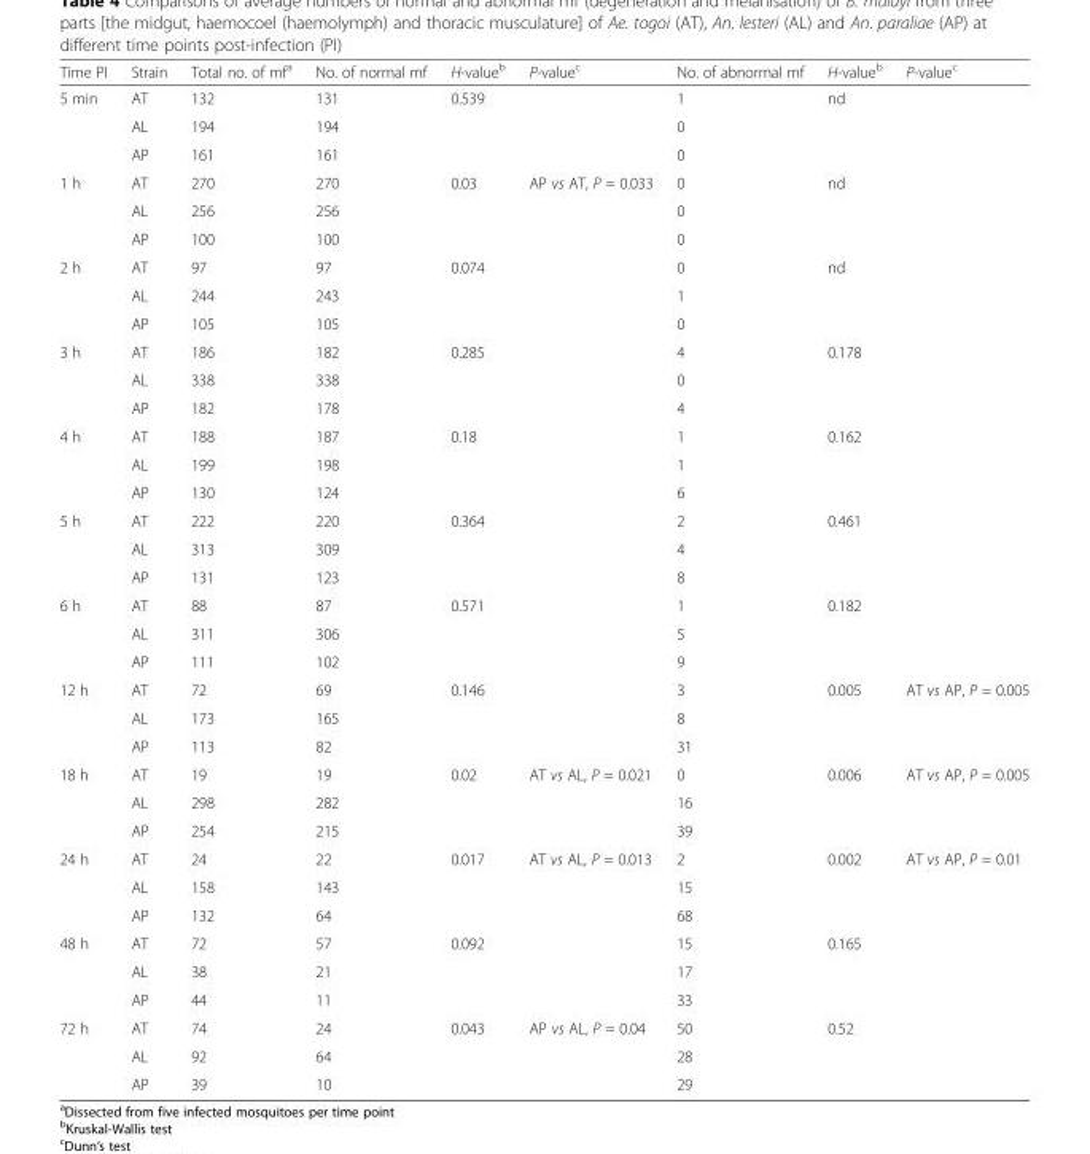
<table><thead><tr><td>Time PI</td><td>Strain</td><td>Total no. of mf<sup>a</sup></td><td>No. of normal mf</td><td>H-value<sup>b</sup></td><td>P-value<sup>c</sup></td><td>No. of abnormal mf</td><td>H-value<sup>b</sup></td><td>P-value<sup>c</sup></td></tr></thead><tbody><tr><td rowspan="3">5 min</td><td>AT</td><td>132</td><td>131</td><td rowspan="3">0.539</td><td rowspan="3"></td><td>1</td><td rowspan="3">nd</td><td rowspan="3"></td></tr><tr><td>AL</td><td>194</td><td>194</td><td>0</td></tr><tr><td>AP</td><td>161</td><td>161</td><td>0</td></tr><tr><td rowspan="3">1 h</td><td>AT</td><td>270</td><td>270</td><td rowspan="3">0.03</td><td rowspan="3">AP vs AT, P = 0.033</td><td>0</td><td rowspan="3">nd</td><td rowspan="3"></td></tr><tr><td>AL</td><td>256</td><td>256</td><td>0</td></tr><tr><td>AP</td><td>100</td><td>100</td><td>0</td></tr><tr><td rowspan="3">2 h</td><td>AT</td><td>97</td><td>97</td><td rowspan="3">0.074</td><td rowspan="3"></td><td>0</td><td rowspan="3">nd</td><td rowspan="3"></td></tr><tr><td>AL</td><td>244</td><td>243</td><td>1</td></tr><tr><td>AP</td><td>105</td><td>105</td><td>0</td></tr><tr><td rowspan="3">3 h</td><td>AT</td><td>186</td><td>182</td><td rowspan="3">0.285</td><td rowspan="3"></td><td>4</td><td rowspan="3">0.178</td><td rowspan="3"></td></tr><tr><td>AL</td><td>338</td><td>338</td><td>0</td></tr><tr><td>AP</td><td>182</td><td>178</td><td>4</td></tr><tr><td rowspan="3">4 h</td><td>AT</td><td>188</td><td>187</td><td rowspan="3">0.18</td><td rowspan="3"></td><td>1</td><td rowspan="3">0.162</td><td rowspan="3"></td></tr><tr><td>AL</td><td>199</td><td>198</td><td>1</td></tr><tr><td>AP</td><td>130</td><td>124</td><td>6</td></tr><tr><td rowspan="3">5 h</td><td>AT</td><td>222</td><td>220</td><td rowspan="3">0.364</td><td rowspan="3"></td><td>2</td><td rowspan="3">0.461</td><td rowspan="3"></td></tr><tr><td>AL</td><td>313</td><td>309</td><td>4</td></tr><tr><td>AP</td><td>131</td><td>123</td><td>8</td></tr><tr><td rowspan="3">6 h</td><td>AT</td><td>88</td><td>87</td><td rowspan="3">0.571</td><td rowspan="3"></td><td>1</td><td rowspan="3">0.182</td><td rowspan="3"></td></tr><tr><td>AL</td><td>311</td><td>306</td><td>5</td></tr><tr><td>AP</td><td>111</td><td>102</td><td>9</td></tr><tr><td rowspan="3">12 h</td><td>AT</td><td>72</td><td>69</td><td rowspan="3">0.146</td><td rowspan="3"></td><td>3</td><td rowspan="3">0.005</td><td rowspan="3">AT vs AP, P = 0.005</td></tr><tr><td>AL</td><td>173</td><td>165</td><td>8</td></tr><tr><td>AP</td><td>113</td><td>82</td><td>31</td></tr><tr><td rowspan="3">18 h</td><td>AT</td><td>19</td><td>19</td><td rowspan="3">0.02</td><td rowspan="3">AT vs AL, P = 0.021</td><td>0</td><td rowspan="3">0.006</td><td rowspan="3">AT vs AP, P = 0.005</td></tr><tr><td>AL</td><td>298</td><td>282</td><td>16</td></tr><tr><td>AP</td><td>254</td><td>215</td><td>39</td></tr><tr><td rowspan="3">24 h</td><td>AT</td><td>24</td><td>22</td><td rowspan="3">0.017</td><td rowspan="3">AT vs AL, P = 0.013</td><td>2</td><td rowspan="3">0.002</td><td rowspan="3">AT vs AP, P = 0.01</td></tr><tr><td>AL</td><td>158</td><td>143</td><td>15</td></tr><tr><td>AP</td><td>132</td><td>64</td><td>68</td></tr><tr><td rowspan="3">48 h</td><td>AT</td><td>72</td><td>57</td><td rowspan="3">0.092</td><td rowspan="3"></td><td>15</td><td rowspan="3">0.165</td><td rowspan="3"></td></tr><tr><td>AL</td><td>38</td><td>21</td><td>17</td></tr><tr><td>AP</td><td>44</td><td>11</td><td>33</td></tr><tr><td rowspan="3">72 h</td><td>AT</td><td>74</td><td>24</td><td rowspan="3">0.043</td><td rowspan="3">AP vs AL, P = 0.04</td><td>50</td><td rowspan="3">0.52</td><td rowspan="3"></td></tr><tr><td>AL</td><td>92</td><td>64</td><td>28</td></tr><tr><td>AP</td><td>39</td><td>10</td><td>29</td></tr></tbody></table>